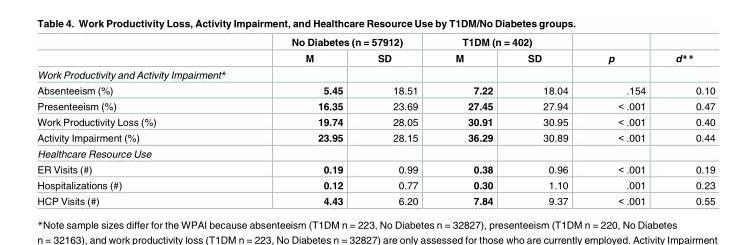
<table><thead><tr><td rowspan="2"></td><td colspan="2">No Diabetes (n = 57912)</td><td colspan="2">T1DM (n = 402)</td><td rowspan="2">p</td><td rowspan="2">d**</td></tr><tr><td>M</td><td>SD</td><td>M</td><td>SD</td></tr></thead><tbody><tr><td colspan="7">Work Productivity and Activity Impairment*</td></tr><tr><td>Absenteeism (%)</td><td>5.45</td><td>18.51</td><td>7.22</td><td>18.04</td><td>.154</td><td>0.10</td></tr><tr><td>Presenteeism (%)</td><td>16.35</td><td>23.69</td><td>27.45</td><td>27.94</td><td>&lt; .001</td><td>0.47</td></tr><tr><td>Work Productivity Loss (%)</td><td>19.74</td><td>28.05</td><td>30.91</td><td>30.95</td><td>&lt; .001</td><td>0.40</td></tr><tr><td>Activity Impairment (%)</td><td>23.95</td><td>28.15</td><td>36.29</td><td>30.89</td><td>&lt; .001</td><td>0.44</td></tr><tr><td colspan="7">Healthcare Resource Use</td></tr><tr><td>ER Visits (#)</td><td>0.19</td><td>0.99</td><td>0.38</td><td>0.96</td><td>&lt; .001</td><td>0.19</td></tr><tr><td>Hospitalizations (#)</td><td>0.12</td><td>0.77</td><td>0.30</td><td>1.10</td><td>.001</td><td>0.23</td></tr><tr><td>HCP Visits (#)</td><td>4.43</td><td>6.20</td><td>7.84</td><td>9.37</td><td>&lt; .001</td><td>0.55</td></tr></tbody></table>